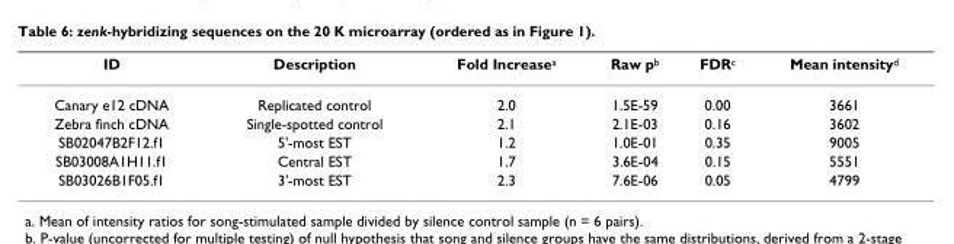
<table><thead><tr><td>ID</td><td>Description</td><td>Fold Increase<sup>a</sup></td><td>Raw p<sup>b</sup></td><td>FDR<sup>c</sup></td><td>Mean intensity<sup>d</sup></td></tr></thead><tbody><tr><td>Canary e12 cDNA</td><td>Replicated control</td><td>2.0</td><td>1.5E-59</td><td>0.00</td><td>3661</td></tr><tr><td>Zebra finch cDNA</td><td>Single-spotted control</td><td>2.1</td><td>2.1E-03</td><td>0.16</td><td>3602</td></tr><tr><td>SB02047B2F12.f1</td><td>5&#x27;-most EST</td><td>1.2</td><td>1.0E-01</td><td>0.35</td><td>9005</td></tr><tr><td>SB03008A1H11.f1</td><td>Central EST</td><td>1.7</td><td>3.6E-04</td><td>0.15</td><td>5551</td></tr><tr><td>SB03026B1F05.f1</td><td>3&#x27;-most EST</td><td>2.3</td><td>7.6E-06</td><td>0.05</td><td>4799</td></tr></tbody></table>